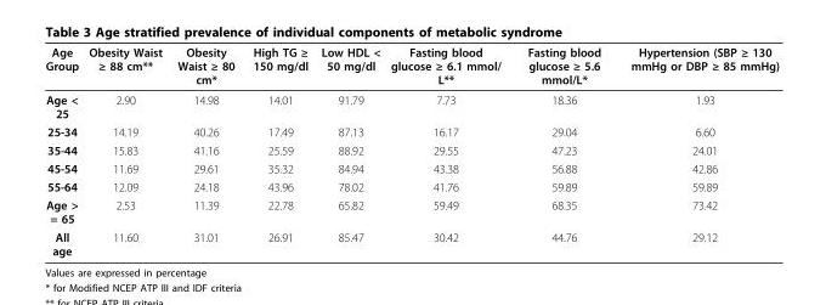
<table><thead><tr><td>Age Group</td><td>Obesity Waist ≥ 88 cm**</td><td>Obesity Waist ≥ 80 cm*</td><td>High TG ≥ 150 mg/dl</td><td>Low HDL &lt; 50 mg/dl</td><td>Fasting blood glucose ≥ 6.1 mmol/ L**</td><td>Fasting blood glucose ≥ 5.6 mmol/L*</td><td>Hypertension (SBP ≥ 130 mmHg or DBP ≥ 85 mmHg)</td></tr></thead><tbody><tr><td>Age &lt; 25</td><td>2.90</td><td>14.98</td><td>14.01</td><td>91.79</td><td>7.73</td><td>18.36</td><td>1.93</td></tr><tr><td>25-34</td><td>14.19</td><td>40.26</td><td>17.49</td><td>87.13</td><td>16.17</td><td>29.04</td><td>6.60</td></tr><tr><td>35-44</td><td>15.83</td><td>41.16</td><td>25.59</td><td>88.92</td><td>29.55</td><td>47.23</td><td>24.01</td></tr><tr><td>45-54</td><td>11.69</td><td>29.61</td><td>35.32</td><td>84.94</td><td>43.38</td><td>56.88</td><td>42.86</td></tr><tr><td>55-64</td><td>12.09</td><td>24.18</td><td>43.96</td><td>78.02</td><td>41.76</td><td>59.89</td><td>59.89</td></tr><tr><td>Age &gt; = 65</td><td>2.53</td><td>11.39</td><td>22.78</td><td>65.82</td><td>59.49</td><td>68.35</td><td>73.42</td></tr><tr><td>All age</td><td>11.60</td><td>31.01</td><td>26.91</td><td>85.47</td><td>30.42</td><td>44.76</td><td>29.12</td></tr></tbody></table>